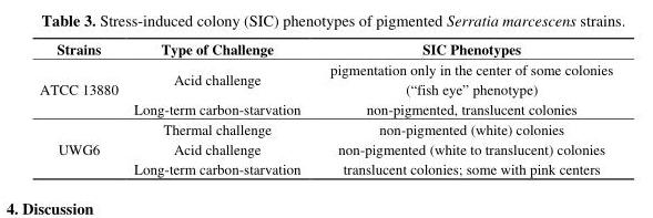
<table><thead><tr><td>Strains</td><td>Type of Challenge</td><td>SIC Phenotypes</td></tr></thead><tbody><tr><td rowspan="2">ATCC 13880</td><td>Acid challenge</td><td>pigmentation only in the center of some colonies (“fish eye” phenotype)</td></tr><tr><td>Long-term carbon-starvation</td><td>non-pigmented, translucent colonies</td></tr><tr><td rowspan="3">UWG6</td><td>Thermal challenge</td><td>non-pigmented (white) colonies</td></tr><tr><td>Acid challenge</td><td>non-pigmented (white to translucent) colonies</td></tr><tr><td>Long-term carbon-starvation</td><td>translucent colonies; some with pink centers</td></tr></tbody></table>